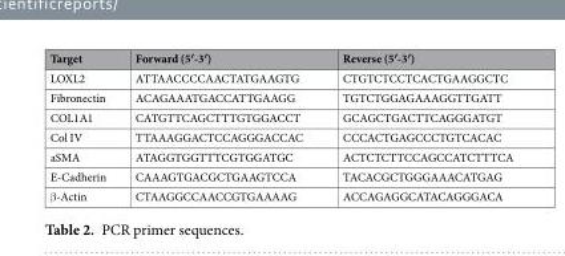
<table><thead><tr><td>Target</td><td>Forward (5′-3′)</td><td>Reverse (5′-3′)</td></tr></thead><tbody><tr><td>LOXL2</td><td>ATTAACCCCAACTATGAAGTG</td><td>CTGTCTCCTCACTGAAGGCTC</td></tr><tr><td>Fibronectin</td><td>ACAGAAATGACCATTGAAGG</td><td>TGTCTGGAGAAAGGTTGATT</td></tr><tr><td>COL1A1</td><td>CATGTTCAGCTTTGTGGACCT</td><td>GCAGCTGACTTCAGGGATGT</td></tr><tr><td>Col IV</td><td>TTAAAGGACTCCAGGGACCAC</td><td>CCCACTGAGCCCTGTCACAC</td></tr><tr><td>aSMA</td><td>ATAGGTGGTTTCGTGGATGC</td><td>ACTCTCTTCCAGCCATCTTTCA</td></tr><tr><td>E-Cadherin</td><td>CAAAGTGACGCTGAAGTCCA</td><td>TACACGCTGGGAAACATGAG</td></tr><tr><td>β-Actin</td><td>CTAAGGCCAACCGTGAAAAG</td><td>ACCAGAGGCATACAGGGACA</td></tr></tbody></table>